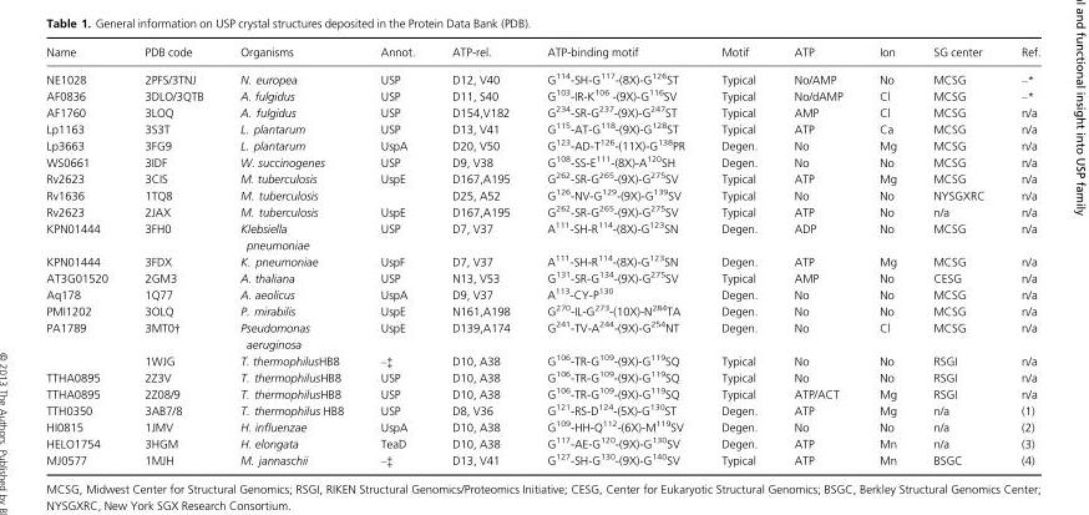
<table><thead><tr><td>Name</td><td>PDB code</td><td>Organisms</td><td>Annot.</td><td>ATP-rel.</td><td>ATP-binding motif</td><td>Motif</td><td>ATP</td><td>Ion</td><td>SG center</td><td>Ref.</td></tr></thead><tbody><tr><td>NE1028</td><td>2PFS/3TNJ</td><td>N. europea</td><td>USP</td><td>D12, V40</td><td>G<sup>114</sup>-SH-G<sup>117</sup>-(8X)-G<sup>126</sup>ST</td><td>Typical</td><td>No/AMP</td><td>No</td><td>MCSG</td><td>–*</td></tr><tr><td>AF0836</td><td>3DLO/3QTB</td><td>A. fulgidus</td><td>USP</td><td>D11, S40</td><td>G<sup>103</sup>-IR-K<sup>106</sup> -(9X)-G<sup>116</sup>SV</td><td>Typical</td><td>No/dAMP</td><td>Cl</td><td>MCSG</td><td>–*</td></tr><tr><td>AF1760</td><td>3LOQ</td><td>A. fulgidus</td><td>USP</td><td>D154,V182</td><td>G<sup>234</sup>-SR-G<sup>237</sup>-(9X)-G<sup>247</sup>ST</td><td>Typical</td><td>AMP</td><td>Cl</td><td>MCSG</td><td>n/a</td></tr><tr><td>Lp1163</td><td>3S3T</td><td>L. plantarum</td><td>USP</td><td>D13, V41</td><td>G<sup>115</sup>-AT-G<sup>118</sup>-(9X)-G<sup>128</sup>ST</td><td>Typical</td><td>ATP</td><td>Ca</td><td>MCSG</td><td>n/a</td></tr><tr><td>Lp3663</td><td>3FG9</td><td>L. plantarum</td><td>UspA</td><td>D20, V50</td><td>G<sup>123</sup>-AD-T<sup>126</sup>-(11X)-G<sup>138</sup>PR</td><td>Degen.</td><td>No</td><td>Mg</td><td>MCSG</td><td>n/a</td></tr><tr><td>WS0661</td><td>3IDF</td><td>W. succinogenes</td><td>USP</td><td>D9, V38</td><td>G<sup>108</sup>-SS-E<sup>111</sup>-(8X)-A<sup>120</sup>SH</td><td>Degen.</td><td>No</td><td>No</td><td>MCSG</td><td>n/a</td></tr><tr><td>Rv2623</td><td>3CIS</td><td>M. tuberculosis</td><td>UspE</td><td>D167,A195</td><td>G<sup>262</sup>-SR-G<sup>265</sup>-(9X)-G<sup>275</sup>SV</td><td>Typical</td><td>ATP</td><td>Mg</td><td>MCSG</td><td>n/a</td></tr><tr><td>Rv1636</td><td>1TQ8</td><td>M. tuberculosis</td><td></td><td>D25, A52</td><td>G<sup>126</sup>-NV-G<sup>129</sup>-(9X)-G<sup>139</sup>SV</td><td>Typical</td><td>No</td><td>No</td><td>NYSGXRC</td><td>n/a</td></tr><tr><td>Rv2623</td><td>2JAX</td><td>M. tuberculosis</td><td>UspE</td><td>D167,A195</td><td>G<sup>262</sup>-SR-G<sup>265</sup>-(9X)-G<sup>275</sup>SV</td><td>Typical</td><td>ATP</td><td>No</td><td>n/a</td><td>n/a</td></tr><tr><td>KPN01444</td><td>3FH0</td><td>Klebsiella pneumoniae</td><td>USP</td><td>D7, V37</td><td>A<sup>111</sup>-SH-R<sup>114</sup>-(8X)-G<sup>123</sup>SN</td><td>Degen.</td><td>ADP</td><td>No</td><td>MCSG</td><td>n/a</td></tr><tr><td>KPN01444</td><td>3FDX</td><td>K. pneumoniae</td><td>UspF</td><td>D7, V37</td><td>A<sup>111</sup>-SH-R<sup>114</sup>-(8X)-G<sup>123</sup>SN</td><td>Degen.</td><td>ATP</td><td>Mg</td><td>MCSG</td><td>n/a</td></tr><tr><td>AT3G01520</td><td>2GM3</td><td>A. thaliana</td><td>USP</td><td>N13, V53</td><td>G<sup>131</sup>-SR-G<sup>134</sup>-(9X)-G<sup>275</sup>SV</td><td>Typical</td><td>AMP</td><td>No</td><td>CESG</td><td>n/a</td></tr><tr><td>Aq178</td><td>1Q77</td><td>A. aeolicus</td><td>UspA</td><td>D9, V37</td><td>A<sup>113</sup>-CY-P<sup>130</sup></td><td>Degen.</td><td>No</td><td>No</td><td>MCSG</td><td>n/a</td></tr><tr><td>PMI1202</td><td>3OLQ</td><td>P. mirabilis</td><td>UspE</td><td>N161,A198</td><td>G<sup>270</sup>-IL-G<sup>273</sup>-(10X)-N<sup>284</sup>TA</td><td>Degen.</td><td>No</td><td>No</td><td>MCSG</td><td>n/a</td></tr><tr><td rowspan="2">PA1789</td><td>3MT0†</td><td>Pseudomonas aeruginosa</td><td>UspE</td><td>D139,A174</td><td>G<sup>241</sup>-TV-A<sup>244</sup>-(9X)-G<sup>254</sup>NT</td><td>Degen.</td><td>No</td><td>Cl</td><td>MCSG</td><td>n/a</td></tr><tr><td>1WJG</td><td>T. thermophilusHB8</td><td>–‡</td><td>D10, A38</td><td>G<sup>106</sup>-TR-G<sup>109</sup>-(9X)-G<sup>119</sup>SQ</td><td>Typical</td><td>No</td><td>No</td><td>RSGI</td><td>n/a</td></tr><tr><td>TTHA0895</td><td>2Z3V</td><td>T. thermophilusHB8</td><td>USP</td><td>D10, A38</td><td>G<sup>106</sup>-TR-G<sup>109</sup>-(9X)-G<sup>119</sup>SQ</td><td>Typical</td><td>No</td><td>No</td><td>RSGI</td><td>n/a</td></tr><tr><td>TTHA0895</td><td>2Z08/9</td><td>T. thermophilusHB8</td><td>USP</td><td>D10, A38</td><td>G<sup>106</sup>-TR-G<sup>109</sup>-(9X)-G<sup>119</sup>SQ</td><td>Typical</td><td>ATP/ACT</td><td>Mg</td><td>RSGI</td><td>n/a</td></tr><tr><td>TTH0350</td><td>3AB7/8</td><td>T. thermophilus HB8</td><td>USP</td><td>D8, V36</td><td>G<sup>121</sup>-RS-D<sup>124</sup>-(5X)-G<sup>130</sup>ST</td><td>Degen.</td><td>ATP</td><td>Mg</td><td>n/a</td><td>(1)</td></tr><tr><td>HI0815</td><td>1JMV</td><td>H. influenzae</td><td>UspA</td><td>D10, A38</td><td>G<sup>109</sup>-HH-Q<sup>112</sup>-(6X)-M<sup>119</sup>SV</td><td>Degen.</td><td>No</td><td>No</td><td>n/a</td><td>(2)</td></tr><tr><td>HELO1754</td><td>3HGM</td><td>H. elongata</td><td>TeaD</td><td>D10, A38</td><td>G<sup>117</sup>-AE-G<sup>120</sup>-(9X)-G<sup>130</sup>SV</td><td>Degen.</td><td>ATP</td><td>Mn</td><td>n/a</td><td>(3)</td></tr><tr><td>MJ0577</td><td>1MJH</td><td>M. jannaschii</td><td>–‡</td><td>D13, V41</td><td>G<sup>127</sup>-SH-G<sup>130</sup>-(9X)-G<sup>140</sup>SV</td><td>Typical</td><td>ATP</td><td>Mn</td><td>BSGC</td><td>(4)</td></tr></tbody></table>